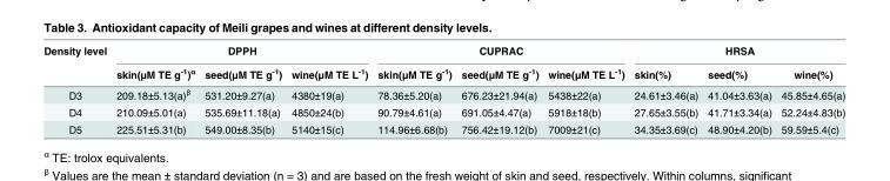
<table><thead><tr><td rowspan="2">Density level</td><td colspan="3">DPPH</td><td colspan="3">CUPRAC</td><td colspan="3">HRSA</td></tr><tr><td>skin(μM TE g<sup>-1</sup>)<sup>α</sup></td><td>seed(μM TE g<sup>-1</sup>)</td><td>wine(μM TE L<sup>-1</sup>)</td><td>skin(μM TE g<sup>-1</sup>)</td><td>seed(μM TE g<sup>-1</sup>)</td><td>wine(μM TE L<sup>-1</sup>)</td><td>skin(%)</td><td>seed(%)</td><td>wine(%)</td></tr></thead><tbody><tr><td>D3</td><td>209.18±5.13(a)<sup>β</sup></td><td>531.20±9.27(a)</td><td>4380±19(a)</td><td>78.36±5.20(a)</td><td>676.23±21.94(a)</td><td>5438±22(a)</td><td>24.61±3.46(a)</td><td>41.04±3.63(a)</td><td>45.85±4.65(a)</td></tr><tr><td>D4</td><td>210.09±5.01(a)</td><td>535.69±11.18(a)</td><td>4850±24(b)</td><td>90.79±4.61(a)</td><td>691.05±4.47(a)</td><td>5918±18(b)</td><td>27.65±3.55(b)</td><td>41.71±3.34(a)</td><td>52.24±4.83(b)</td></tr><tr><td>D5</td><td>225.51±5.31(b)</td><td>549.00±8.35(b)</td><td>5140±15(c)</td><td>114.96±6.68(b)</td><td>756.42±19.12(b)</td><td>7009±21(c)</td><td>34.35±3.69(c)</td><td>48.90±4.20(b)</td><td>59.59±5.4(c)</td></tr></tbody></table>